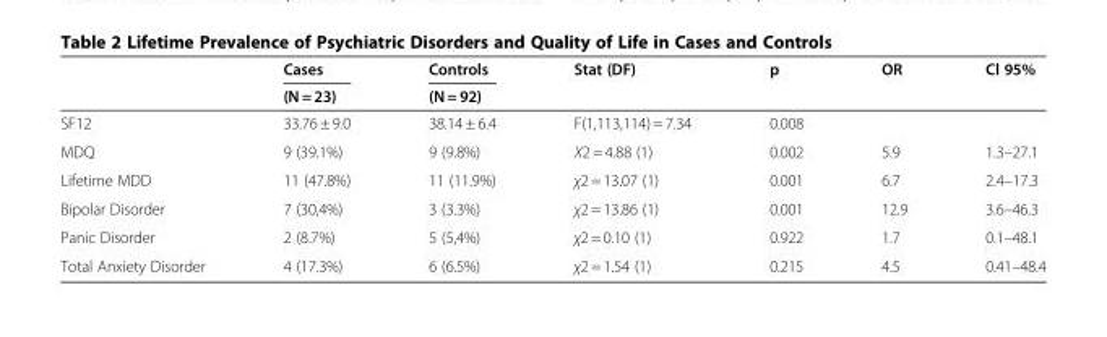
<table><thead><tr><td rowspan="2"></td><td rowspan="2">Cases (N = 23)</td><td rowspan="2">Controls (N = 92)</td><td rowspan="2">Stat (DF)</td><td rowspan="2">p</td><td rowspan="2">OR</td><td rowspan="2">Cl 95%</td></tr><tr></tr></thead><tbody><tr><td>SF12</td><td>33.76 ± 9.0</td><td>38.14 ± 6.4</td><td>F(1,113,114) = 7.34</td><td>0.008</td><td></td><td></td></tr><tr><td>MDQ</td><td>9 (39.1%)</td><td>9 (9.8%)</td><td>X2 = 4.88 (1)</td><td>0.002</td><td>5.9</td><td>1.3–27.1</td></tr><tr><td>Lifetime MDD</td><td>11 (47.8%)</td><td>11 (11.9%)</td><td>χ2 = 13.07 (1)</td><td>0.001</td><td>6.7</td><td>2.4–17.3</td></tr><tr><td>Bipolar Disorder</td><td>7 (30,4%)</td><td>3 (3.3%)</td><td>χ2 = 13.86 (1)</td><td>0.001</td><td>12.9</td><td>3.6–46.3</td></tr><tr><td>Panic Disorder</td><td>2 (8.7%)</td><td>5 (5,4%)</td><td>χ2 = 0.10 (1)</td><td>0.922</td><td>1.7</td><td>0.1–48.1</td></tr><tr><td>Total Anxiety Disorder</td><td>4 (17.3%)</td><td>6 (6.5%)</td><td>χ2 = 1.54 (1)</td><td>0.215</td><td>4.5</td><td>0.41–48.4</td></tr></tbody></table>